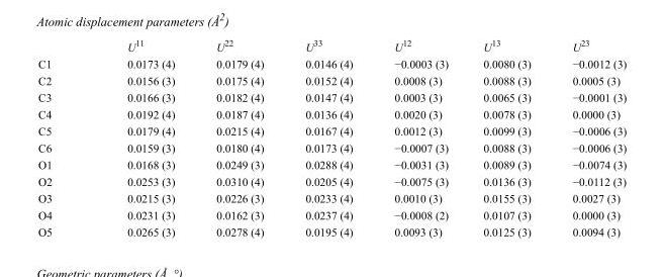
<table><thead><tr><td></td><td>U<sup>11</sup></td><td>U<sup>22</sup></td><td>U<sup>33</sup></td><td>U<sup>12</sup></td><td>U<sup>13</sup></td><td>U<sup>23</sup></td></tr></thead><tbody><tr><td>C1</td><td>0.0173 (4)</td><td>0.0179 (4)</td><td>0.0146 (4)</td><td>−0.0003 (3)</td><td>0.0080 (3)</td><td>−0.0012 (3)</td></tr><tr><td>C2</td><td>0.0156 (3)</td><td>0.0175 (4)</td><td>0.0152 (4)</td><td>0.0008 (3)</td><td>0.0088 (3)</td><td>0.0005 (3)</td></tr><tr><td>C3</td><td>0.0166 (3)</td><td>0.0182 (4)</td><td>0.0147 (4)</td><td>0.0003 (3)</td><td>0.0065 (3)</td><td>−0.0001 (3)</td></tr><tr><td>C4</td><td>0.0192 (4)</td><td>0.0187 (4)</td><td>0.0136 (4)</td><td>0.0020 (3)</td><td>0.0078 (3)</td><td>0.0000 (3)</td></tr><tr><td>C5</td><td>0.0179 (4)</td><td>0.0215 (4)</td><td>0.0167 (4)</td><td>0.0012 (3)</td><td>0.0099 (3)</td><td>−0.0006 (3)</td></tr><tr><td>C6</td><td>0.0159 (3)</td><td>0.0180 (4)</td><td>0.0173 (4)</td><td>−0.0007 (3)</td><td>0.0088 (3)</td><td>−0.0006 (3)</td></tr><tr><td>O1</td><td>0.0168 (3)</td><td>0.0249 (3)</td><td>0.0288 (4)</td><td>−0.0031 (3)</td><td>0.0089 (3)</td><td>−0.0074 (3)</td></tr><tr><td>O2</td><td>0.0253 (3)</td><td>0.0310 (4)</td><td>0.0205 (4)</td><td>−0.0075 (3)</td><td>0.0136 (3)</td><td>−0.0112 (3)</td></tr><tr><td>O3</td><td>0.0215 (3)</td><td>0.0226 (3)</td><td>0.0233 (4)</td><td>0.0010 (3)</td><td>0.0155 (3)</td><td>0.0027 (3)</td></tr><tr><td>O4</td><td>0.0231 (3)</td><td>0.0162 (3)</td><td>0.0237 (4)</td><td>−0.0008 (2)</td><td>0.0107 (3)</td><td>0.0000 (3)</td></tr><tr><td>O5</td><td>0.0265 (3)</td><td>0.0278 (4)</td><td>0.0195 (4)</td><td>0.0093 (3)</td><td>0.0125 (3)</td><td>0.0094 (3)</td></tr></tbody></table>